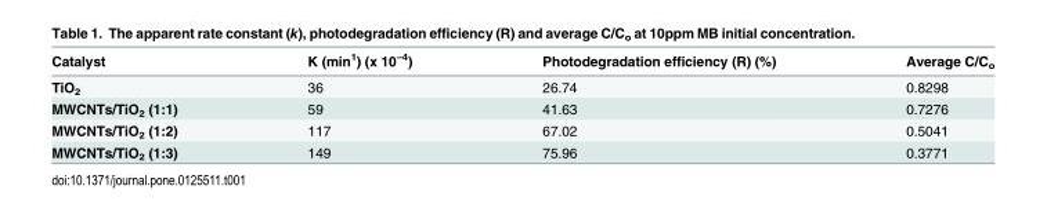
<table><thead><tr><td>Catalyst</td><td>K (min<sup>1</sup>) (x 10<sup>–4</sup>)</td><td>Photodegradation efficiency (R) (%)</td><td>Average C/C<sub>o</sub></td></tr></thead><tbody><tr><td>TiO<sub>2</sub></td><td>36</td><td>26.74</td><td>0.8298</td></tr><tr><td>MWCNTs/TiO<sub>2</sub> (1:1)</td><td>59</td><td>41.63</td><td>0.7276</td></tr><tr><td>MWCNTs/TiO<sub>2</sub> (1:2)</td><td>117</td><td>67.02</td><td>0.5041</td></tr><tr><td>MWCNTs/TiO<sub>2</sub> (1:3)</td><td>149</td><td>75.96</td><td>0.3771</td></tr></tbody></table>